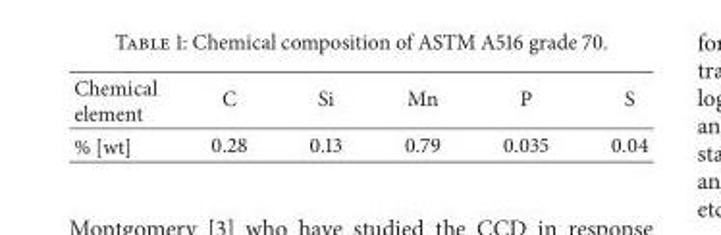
<table><thead><tr><td>Chemical element</td><td>C</td><td>Si</td><td>Mn</td><td>P</td><td>S</td></tr></thead><tbody><tr><td>% [wt]</td><td>0.28</td><td>0.13</td><td>0.79</td><td>0.035</td><td>0.04</td></tr></tbody></table>